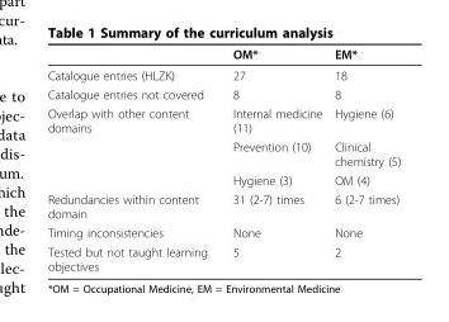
<table><thead><tr><td></td><td>OM*</td><td>EM*</td></tr></thead><tbody><tr><td>Catalogue entries (HLZK)</td><td>27</td><td>18</td></tr><tr><td>Catalogue entries not covered</td><td>8</td><td>8</td></tr><tr><td rowspan="3">Overlap with other content domains</td><td>Internal medicine (11)</td><td>Hygiene (6)</td></tr><tr><td>Prevention (10)</td><td>Clinical chemistry (5)</td></tr><tr><td>Hygiene (3)</td><td>OM (4)</td></tr><tr><td>Redundancies within content domain</td><td>31 (2-7) times</td><td>6 (2-7 times)</td></tr><tr><td>Timing inconsistencies</td><td>None</td><td>None</td></tr><tr><td>Tested but not taught learning objectives</td><td>5</td><td>2</td></tr></tbody></table>